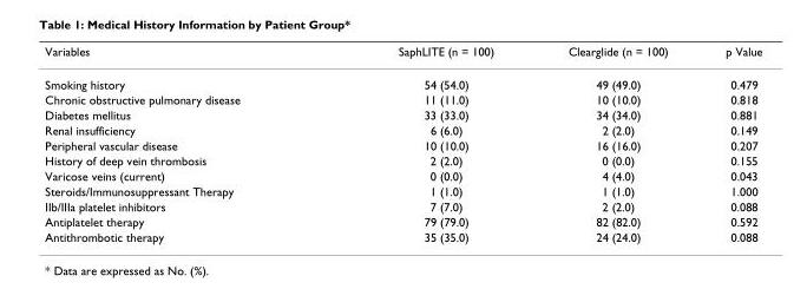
<table><thead><tr><td>Variables</td><td>SaphLITE (n = 100)</td><td>Clearglide (n = 100)</td><td>p Value</td></tr></thead><tbody><tr><td>Smoking history</td><td>54 (54.0)</td><td>49 (49.0)</td><td>0.479</td></tr><tr><td>Chronic obstructive pulmonary disease</td><td>11 (11.0)</td><td>10 (10.0)</td><td>0.818</td></tr><tr><td>Diabetes mellitus</td><td>33 (33.0)</td><td>34 (34.0)</td><td>0.881</td></tr><tr><td>Renal insufficiency</td><td>6 (6.0)</td><td>2 (2.0)</td><td>0.149</td></tr><tr><td>Peripheral vascular disease</td><td>10 (10.0)</td><td>16 (16.0)</td><td>0.207</td></tr><tr><td>History of deep vein thrombosis</td><td>2 (2.0)</td><td>0 (0.0)</td><td>0.155</td></tr><tr><td>Varicose veins (current)</td><td>0 (0.0)</td><td>4 (4.0)</td><td>0.043</td></tr><tr><td>Steroids/Immunosuppressant Therapy</td><td>1 (1.0)</td><td>1 (1.0)</td><td>1.000</td></tr><tr><td>IIb/IIIa platelet inhibitors</td><td>7 (7.0)</td><td>2 (2.0)</td><td>0.088</td></tr><tr><td>Antiplatelet therapy</td><td>79 (79.0)</td><td>82 (82.0)</td><td>0.592</td></tr><tr><td>Antithrombotic therapy</td><td>35 (35.0)</td><td>24 (24.0)</td><td>0.088</td></tr></tbody></table>